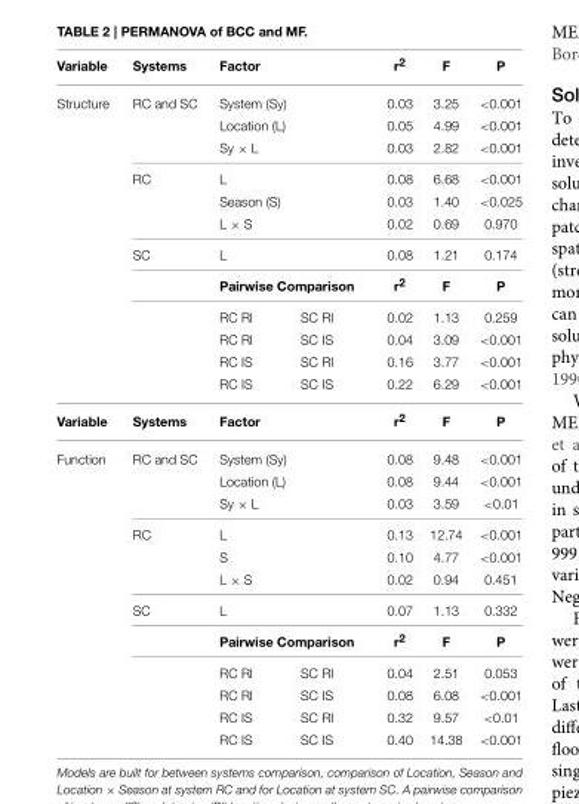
<table><thead><tr><td>Variable</td><td>Systems</td><td colspan="2">Factor</td><td>r<sup>2</sup></td><td>F</td><td>P</td></tr></thead><tbody><tr><td rowspan="12">Structure</td><td>RC and SC</td><td colspan="2">System (Sy)</td><td>0.03</td><td>3.25</td><td>&lt;0.001</td></tr><tr><td></td><td colspan="2">Location (L)</td><td>0.05</td><td>4.99</td><td>&lt;0.001</td></tr><tr><td></td><td colspan="2">Sy × L</td><td>0.03</td><td>2.82</td><td>&lt;0.001</td></tr><tr><td>RC</td><td colspan="2">L</td><td>0.08</td><td>6.68</td><td>&lt;0.001</td></tr><tr><td></td><td colspan="2">Season (S)</td><td>0.03</td><td>1.40</td><td>&lt;0.025</td></tr><tr><td></td><td colspan="2">L × S</td><td>0.02</td><td>0.69</td><td>0.970</td></tr><tr><td>SC</td><td colspan="2">L</td><td>0.08</td><td>1.21</td><td>0.174</td></tr><tr><td></td><td colspan="2">Pairwise Comparison</td><td>r<sup>2</sup></td><td>F</td><td>P</td></tr><tr><td></td><td>RC RI</td><td>SC RI</td><td>0.02</td><td>1.13</td><td>0.259</td></tr><tr><td></td><td>RC RI</td><td>SC IS</td><td>0.04</td><td>3.09</td><td>&lt;0.001</td></tr><tr><td></td><td>RC IS</td><td>SC RI</td><td>0.16</td><td>3.77</td><td>&lt;0.001</td></tr><tr><td></td><td>RC IS</td><td>SC IS</td><td>0.22</td><td>6.29</td><td>&lt;0.001</td></tr><tr><td>Variable</td><td>Systems</td><td colspan="2">Factor</td><td>r<sup>2</sup></td><td>F</td><td>P</td></tr><tr><td rowspan="12">Function</td><td>RC and SC</td><td colspan="2">System (Sy)</td><td>0.08</td><td>9.48</td><td>&lt;0.001</td></tr><tr><td></td><td colspan="2">Location (L)</td><td>0.08</td><td>9.44</td><td>&lt;0.001</td></tr><tr><td></td><td colspan="2">Sy × L</td><td>0.03</td><td>3.59</td><td>&lt;0.01</td></tr><tr><td>RC</td><td colspan="2">L</td><td>0.13</td><td>12.74</td><td>&lt;0.001</td></tr><tr><td></td><td colspan="2">S</td><td>0.10</td><td>4.77</td><td>&lt;0.001</td></tr><tr><td></td><td colspan="2">L × S</td><td>0.02</td><td>0.94</td><td>0.451</td></tr><tr><td>SC</td><td colspan="2">L</td><td>0.07</td><td>1.13</td><td>0.332</td></tr><tr><td></td><td colspan="2">Pairwise Comparison</td><td>r<sup>2</sup></td><td>F</td><td>P</td></tr><tr><td></td><td>RC RI</td><td>SC RI</td><td>0.04</td><td>2.51</td><td>0.053</td></tr><tr><td></td><td>RC RI</td><td>SC IS</td><td>0.08</td><td>6.08</td><td>&lt;0.001</td></tr><tr><td></td><td>RC IS</td><td>SC RI</td><td>0.32</td><td>9.57</td><td>&lt;0.01</td></tr><tr><td></td><td>RC IS</td><td>SC IS</td><td>0.40</td><td>14.38</td><td>&lt;0.001</td></tr></tbody></table>